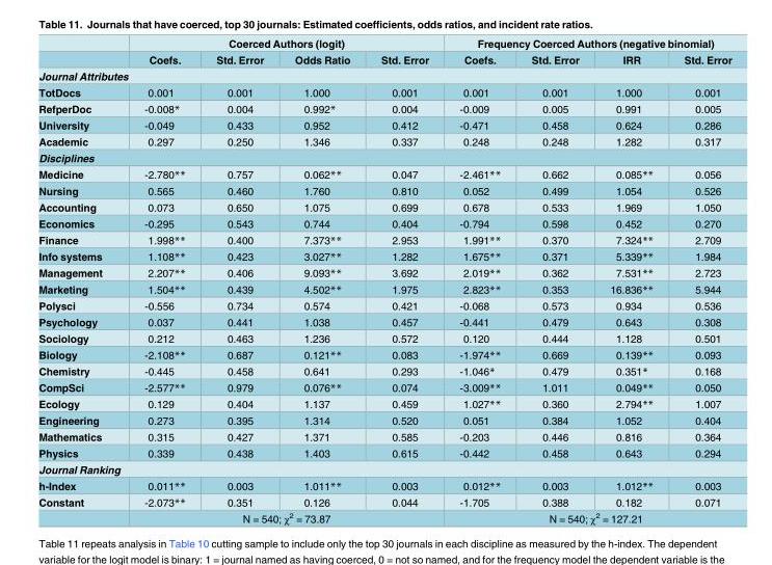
<table><thead><tr><td rowspan="2"></td><td colspan="4">Coerced Authors (logit)</td><td colspan="4">Frequency Coerced Authors (negative binomial)</td></tr><tr><td>Coefs.</td><td>Std. Error</td><td>Odds Ratio</td><td>Std. Error</td><td>Coefs.</td><td>Std. Error</td><td>IRR</td><td>Std. Error</td></tr></thead><tbody><tr><td colspan="9">Journal Attributes</td></tr><tr><td>TotDocs</td><td>0.001</td><td>0.001</td><td>1.000</td><td>0.001</td><td>0.001</td><td>0.001</td><td>1.000</td><td>0.001</td></tr><tr><td>RefperDoc</td><td>-0.008*</td><td>0.004</td><td>0.992*</td><td>0.004</td><td>-0.009</td><td>0.005</td><td>0.991</td><td>0.005</td></tr><tr><td>University</td><td>-0.049</td><td>0.433</td><td>0.952</td><td>0.412</td><td>-0.471</td><td>0.458</td><td>0.624</td><td>0.286</td></tr><tr><td>Academic</td><td>0.297</td><td>0.250</td><td>1.346</td><td>0.337</td><td>0.248</td><td>0.248</td><td>1.282</td><td>0.317</td></tr><tr><td colspan="9">Disciplines</td></tr><tr><td>Medicine</td><td>-2.780**</td><td>0.757</td><td>0.062**</td><td>0.047</td><td>-2.461**</td><td>0.662</td><td>0.085**</td><td>0.056</td></tr><tr><td>Nursing</td><td>0.565</td><td>0.460</td><td>1.760</td><td>0.810</td><td>0.052</td><td>0.499</td><td>1.054</td><td>0.526</td></tr><tr><td>Accounting</td><td>0.073</td><td>0.650</td><td>1.075</td><td>0.699</td><td>0.678</td><td>0.533</td><td>1.969</td><td>1.050</td></tr><tr><td>Economics</td><td>-0.295</td><td>0.543</td><td>0.744</td><td>0.404</td><td>-0.794</td><td>0.598</td><td>0.452</td><td>0.270</td></tr><tr><td>Finance</td><td>1.998**</td><td>0.400</td><td>7.373**</td><td>2.953</td><td>1.991**</td><td>0.370</td><td>7.324**</td><td>2.709</td></tr><tr><td>Info systems</td><td>1.108**</td><td>0.423</td><td>3.027**</td><td>1.282</td><td>1.675**</td><td>0.371</td><td>5.339**</td><td>1.984</td></tr><tr><td>Management</td><td>2.207**</td><td>0.406</td><td>9.093**</td><td>3.692</td><td>2.019**</td><td>0.362</td><td>7.531**</td><td>2.723</td></tr><tr><td>Marketing</td><td>1.504**</td><td>0.439</td><td>4.502**</td><td>1.975</td><td>2.823**</td><td>0.353</td><td>16.836**</td><td>5.944</td></tr><tr><td>Polysci</td><td>-0.556</td><td>0.734</td><td>0.574</td><td>0.421</td><td>-0.068</td><td>0.573</td><td>0.934</td><td>0.536</td></tr><tr><td>Psychology</td><td>0.037</td><td>0.441</td><td>1.038</td><td>0.457</td><td>-0.441</td><td>0.479</td><td>0.643</td><td>0.308</td></tr><tr><td>Sociology</td><td>0.212</td><td>0.463</td><td>1.236</td><td>0.572</td><td>0.120</td><td>0.444</td><td>1.128</td><td>0.501</td></tr><tr><td>Biology</td><td>-2.108**</td><td>0.687</td><td>0.121**</td><td>0.083</td><td>-1.974**</td><td>0.669</td><td>0.139**</td><td>0.093</td></tr><tr><td>Chemistry</td><td>-0.445</td><td>0.458</td><td>0.641</td><td>0.293</td><td>-1.046*</td><td>0.479</td><td>0.351*</td><td>0.168</td></tr><tr><td>CompSci</td><td>-2.577**</td><td>0.979</td><td>0.076**</td><td>0.074</td><td>-3.009**</td><td>1.011</td><td>0.049**</td><td>0.050</td></tr><tr><td>Ecology</td><td>0.129</td><td>0.404</td><td>1.137</td><td>0.459</td><td>1.027**</td><td>0.360</td><td>2.794**</td><td>1.007</td></tr><tr><td>Engineering</td><td>0.273</td><td>0.395</td><td>1.314</td><td>0.520</td><td>0.051</td><td>0.384</td><td>1.052</td><td>0.404</td></tr><tr><td>Mathematics</td><td>0.315</td><td>0.427</td><td>1.371</td><td>0.585</td><td>-0.203</td><td>0.446</td><td>0.816</td><td>0.364</td></tr><tr><td>Physics</td><td>0.339</td><td>0.438</td><td>1.403</td><td>0.615</td><td>-0.442</td><td>0.458</td><td>0.643</td><td>0.294</td></tr><tr><td colspan="9">Journal Ranking</td></tr><tr><td>h-Index</td><td>0.011**</td><td>0.003</td><td>1.011**</td><td>0.003</td><td>0.012**</td><td>0.003</td><td>1.012**</td><td>0.003</td></tr><tr><td rowspan="2">Constant</td><td>-2.073**</td><td>0.351</td><td>0.126</td><td>0.044</td><td>-1.705</td><td>0.388</td><td>0.182</td><td>0.071</td></tr><tr><td colspan="4">N = 540; χ<sup>2</sup> = 73.87</td><td colspan="4">N = 540; χ<sup>2</sup> = 127.21</td></tr></tbody></table>